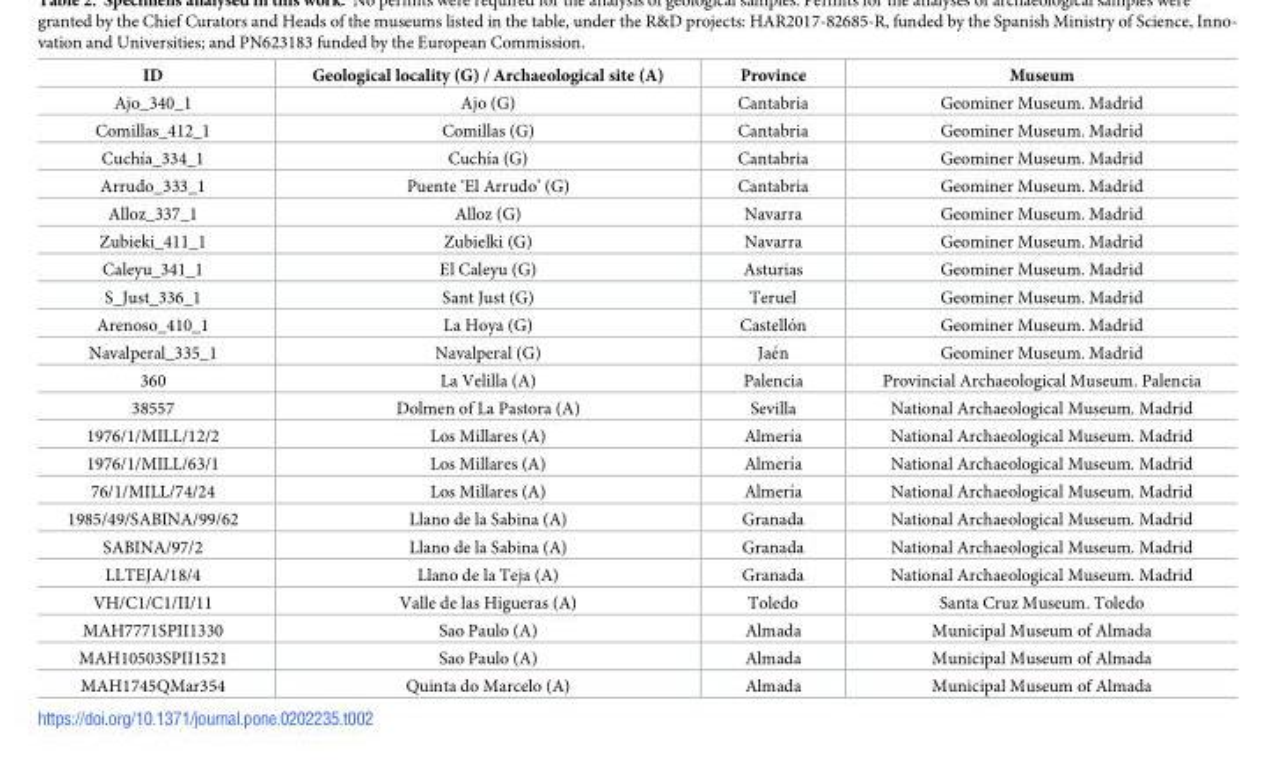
<table><thead><tr><td>ID</td><td>Geological locality (G) / Archaeological site (A)</td><td>Province</td><td>Museum</td></tr></thead><tbody><tr><td>Ajo_340_1</td><td>Ajo (G)</td><td>Cantabria</td><td>Geominer Museum. Madrid</td></tr><tr><td>Comillas_412_1</td><td>Comillas (G)</td><td>Cantabria</td><td>Geominer Museum. Madrid</td></tr><tr><td>Cuchı´a_334_1</td><td>Cuchı´a (G)</td><td>Cantabria</td><td>Geominer Museum. Madrid</td></tr><tr><td>Arrudo_333_1</td><td>Puente ‘El Arrudo’ (G)</td><td>Cantabria</td><td>Geominer Museum. Madrid</td></tr><tr><td>Alloz_337_1</td><td>Alloz (G)</td><td>Navarra</td><td>Geominer Museum. Madrid</td></tr><tr><td>Zubieki_411_1</td><td>Zubielki (G)</td><td>Navarra</td><td>Geominer Museum. Madrid</td></tr><tr><td>Caleyu_341_1</td><td>El Caleyu (G)</td><td>Asturias</td><td>Geominer Museum. Madrid</td></tr><tr><td>S_Just_336_1</td><td>Sant Just (G)</td><td>Teruel</td><td>Geominer Museum. Madrid</td></tr><tr><td>Arenoso_410_1</td><td>La Hoya (G)</td><td>Castello´n</td><td>Geominer Museum. Madrid</td></tr><tr><td>Navalperal_335_1</td><td>Navalperal (G)</td><td>Jae´n</td><td>Geominer Museum. Madrid</td></tr><tr><td>360</td><td>La Velilla (A)</td><td>Palencia</td><td>Provincial Archaeological Museum. Palencia</td></tr><tr><td>38557</td><td>Dolmen of La Pastora (A)</td><td>Sevilla</td><td>National Archaeological Museum. Madrid</td></tr><tr><td>1976/1/MILL/12/2</td><td>Los Millares (A)</td><td>Almerı´a</td><td>National Archaeological Museum. Madrid</td></tr><tr><td>1976/1/MILL/63/1</td><td>Los Millares (A)</td><td>Almerı´a</td><td>National Archaeological Museum. Madrid</td></tr><tr><td>76/1/MILL/74/24</td><td>Los Millares (A)</td><td>Almerı´a</td><td>National Archaeological Museum. Madrid</td></tr><tr><td>1985/49/SABINA/99/62</td><td>Llano de la Sabina (A)</td><td>Granada</td><td>National Archaeological Museum. Madrid</td></tr><tr><td>SABINA/97/2</td><td>Llano de la Sabina (A)</td><td>Granada</td><td>National Archaeological Museum. Madrid</td></tr><tr><td>LLTEJA/18/4</td><td>Llano de la Teja (A)</td><td>Granada</td><td>National Archaeological Museum. Madrid</td></tr><tr><td>VH/C1/C1/II/11</td><td>Valle de las Higueras (A)</td><td>Toledo</td><td>Santa Cruz Museum. Toledo</td></tr><tr><td>MAH7771SPII1330</td><td>Sao Paulo (A)</td><td>Almada</td><td>Municipal Museum of Almada</td></tr><tr><td>MAH10503SPII1521</td><td>Sao Paulo (A)</td><td>Almada</td><td>Municipal Museum of Almada</td></tr><tr><td>MAH1745QMar354</td><td>Quinta do Marcelo (A)</td><td>Almada</td><td>Municipal Museum of Almada</td></tr></tbody></table>